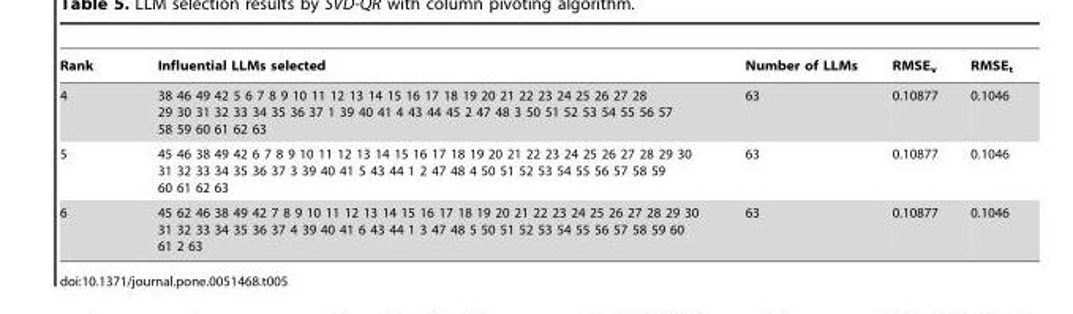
<table><thead><tr><td>Rank</td><td>Influential LLMs selected</td><td>Number of LLMs</td><td>RMSE<sub>v</sub></td><td>RMSE<sub>t</sub></td></tr></thead><tbody><tr><td>4</td><td>38 46 49 42 5 6 7 8 9 10 11 12 13 14 15 16 17 18 19 20 21 22 23 24 25 26 27 28 29 30 31 32 33 34 35 36 37 1 39 40 41 4 43 44 45 2 47 48 3 50 51 52 53 54 55 56 57 58 59 60 61 62 63</td><td>63</td><td>0.10877</td><td>0.1046</td></tr><tr><td>5</td><td>45 46 38 49 42 6 7 8 9 10 11 12 13 14 15 16 17 18 19 20 21 22 23 24 25 26 27 28 29 30 31 32 33 34 35 36 37 3 39 40 41 5 43 44 1 2 47 48 4 50 51 52 53 54 55 56 57 58 59 60 61 62 63</td><td>63</td><td>0.10877</td><td>0.1046</td></tr><tr><td>6</td><td>45 62 46 38 49 42 7 8 9 10 11 12 13 14 15 16 17 18 19 20 21 22 23 24 25 26 27 28 29 30 31 32 33 34 35 36 37 4 39 40 41 6 43 44 1 3 47 48 5 50 51 52 53 54 55 56 57 58 59 60 61 2 63</td><td>63</td><td>0.10877</td><td>0.1046</td></tr></tbody></table>